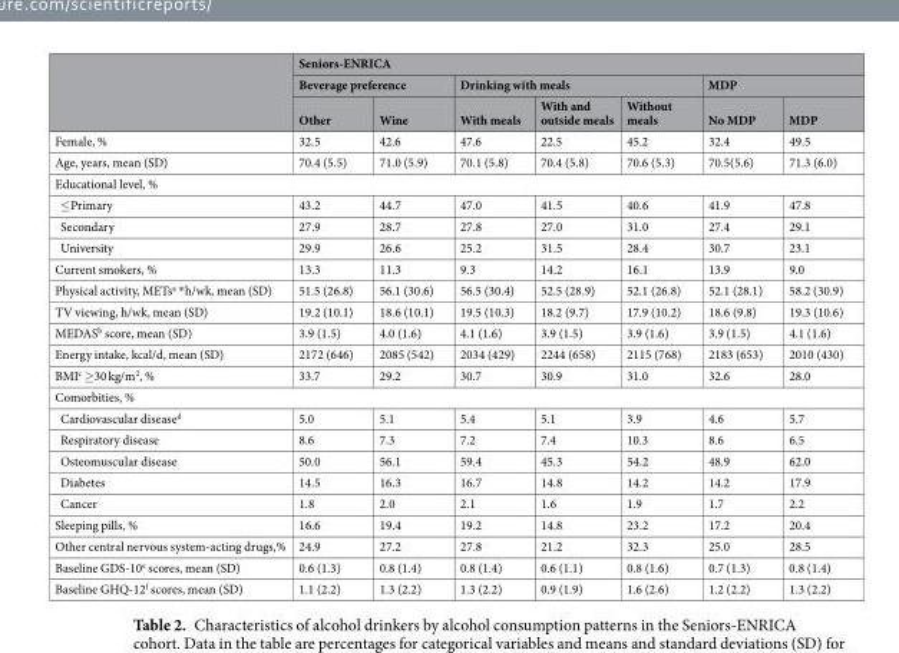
<table><thead><tr><td rowspan="3"></td><td colspan="7">Seniors-ENRICA</td></tr><tr><td colspan="2">Beverage preference</td><td colspan="3">Drinking with meals</td><td colspan="2">MDP</td></tr><tr><td>Other</td><td>Wine</td><td>With meals</td><td>With and outside meals</td><td>Without meals</td><td>No MDP</td><td>MDP</td></tr></thead><tbody><tr><td>Female, %</td><td>32.5</td><td>42.6</td><td>47.6</td><td>22.5</td><td>45.2</td><td>32.4</td><td>49.5</td></tr><tr><td>Age, years, mean (SD)</td><td>70.4 (5.5)</td><td>71.0 (5.9)</td><td>70.1 (5.8)</td><td>70.4 (5.8)</td><td>70.6 (5.3)</td><td>70.5(5.6)</td><td>71.3 (6.0)</td></tr><tr><td colspan="8">Educational level, %</td></tr><tr><td>≤Primary</td><td>43.2</td><td>44.7</td><td>47.0</td><td>41.5</td><td>40.6</td><td>41.9</td><td>47.8</td></tr><tr><td>Secondary</td><td>27.9</td><td>28.7</td><td>27.8</td><td>27.0</td><td>31.0</td><td>27.4</td><td>29.1</td></tr><tr><td>University</td><td>29.9</td><td>26.6</td><td>25.2</td><td>31.5</td><td>28.4</td><td>30.7</td><td>23.1</td></tr><tr><td>Current smokers, %</td><td>13.3</td><td>11.3</td><td>9.3</td><td>14.2</td><td>16.1</td><td>13.9</td><td>9.0</td></tr><tr><td>Physical activity, METs<sup>a</sup> *h/wk, mean (SD)</td><td>51.5 (26.8)</td><td>56.1 (30.6)</td><td>56.5 (30.4)</td><td>52.5 (28.9)</td><td>52.1 (26.8)</td><td>52.1 (28.1)</td><td>58.2 (30.9)</td></tr><tr><td>TV viewing, h/wk, mean (SD)</td><td>19.2 (10.1)</td><td>18.6 (10.1)</td><td>19.5 (10.3)</td><td>18.2 (9.7)</td><td>17.9 (10.2)</td><td>18.6 (9.8)</td><td>19.3 (10.6)</td></tr><tr><td>MEDAS<sup>b</sup> score, mean (SD)</td><td>3.9 (1.5)</td><td>4.0 (1.6)</td><td>4.1 (1.6)</td><td>3.9 (1.5)</td><td>3.9 (1.6)</td><td>3.9 (1.5)</td><td>4.1 (1.6)</td></tr><tr><td>Energy intake, kcal/d, mean (SD)</td><td>2172 (646)</td><td>2085 (542)</td><td>2034 (429)</td><td>2244 (658)</td><td>2115 (768)</td><td>2183 (653)</td><td>2010 (430)</td></tr><tr><td>BMI<sup>c</sup> ≥30 kg/m<sup>2</sup>, %</td><td>33.7</td><td>29.2</td><td>30.7</td><td>30.9</td><td>31.0</td><td>32.6</td><td>28.0</td></tr><tr><td colspan="8">Comorbities, %</td></tr><tr><td>Cardiovascular disease<sup>d</sup></td><td>5.0</td><td>5.1</td><td>5.4</td><td>5.1</td><td>3.9</td><td>4.6</td><td>5.7</td></tr><tr><td>Respiratory disease</td><td>8.6</td><td>7.3</td><td>7.2</td><td>7.4</td><td>10.3</td><td>8.6</td><td>6.5</td></tr><tr><td>Osteomuscular disease</td><td>50.0</td><td>56.1</td><td>59.4</td><td>45.3</td><td>54.2</td><td>48.9</td><td>62.0</td></tr><tr><td>Diabetes</td><td>14.5</td><td>16.3</td><td>16.7</td><td>14.8</td><td>14.2</td><td>14.2</td><td>17.9</td></tr><tr><td>Cancer</td><td>1.8</td><td>2.0</td><td>2.1</td><td>1.6</td><td>1.9</td><td>1.7</td><td>2.2</td></tr><tr><td>Sleeping pills, %</td><td>16.6</td><td>19.4</td><td>19.2</td><td>14.8</td><td>23.2</td><td>17.2</td><td>20.4</td></tr><tr><td>Other central nervous system-acting drugs,%</td><td>24.9</td><td>27.2</td><td>27.8</td><td>21.2</td><td>32.3</td><td>25.0</td><td>28.5</td></tr><tr><td>Baseline GDS-10<sup>e</sup> scores, mean (SD)</td><td>0.6 (1.3)</td><td>0.8 (1.4)</td><td>0.8 (1.4)</td><td>0.6 (1.1)</td><td>0.8 (1.6)</td><td>0.7 (1.3)</td><td>0.8 (1.4)</td></tr><tr><td>Baseline GHQ-12<sup>f</sup> scores, mean (SD)</td><td>1.1 (2.2)</td><td>1.3 (2.2)</td><td>1.3 (2.2)</td><td>0.9 (1.9)</td><td>1.6 (2.6)</td><td>1.2 (2.2)</td><td>1.3 (2.2)</td></tr></tbody></table>